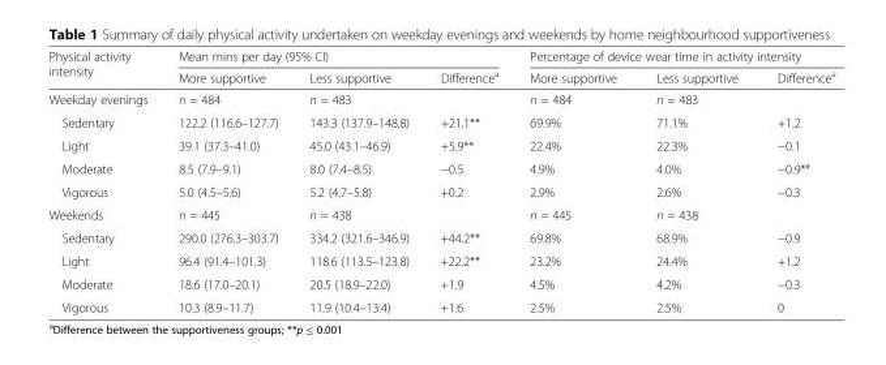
<table><thead><tr><td rowspan="2">Physical activity intensity</td><td colspan="3">Mean mins per day (95% CI)</td><td colspan="3">Percentage of device wear time in activity intensity</td></tr><tr><td>More supportive</td><td>Less supportive</td><td>Difference<sup>a</sup></td><td>More supportive</td><td>Less supportive</td><td>Difference<sup>a</sup></td></tr></thead><tbody><tr><td>Weekday evenings</td><td>n = 484</td><td>n = 483</td><td></td><td>n = 484</td><td>n = 483</td><td></td></tr><tr><td>Sedentary</td><td>122.2 (116.6–127.7)</td><td>143.3 (137.9–148.8)</td><td>+21.1**</td><td>69.9%</td><td>71.1%</td><td>+1.2</td></tr><tr><td>Light</td><td>39.1 (37.3–41.0)</td><td>45.0 (43.1–46.9)</td><td>+5.9**</td><td>22.4%</td><td>22.3%</td><td>−0.1</td></tr><tr><td>Moderate</td><td>8.5 (7.9–9.1)</td><td>8.0 (7.4–8.5)</td><td>−0.5</td><td>4.9%</td><td>4.0%</td><td>−0.9**</td></tr><tr><td>Vigorous</td><td>5.0 (4.5–5.6)</td><td>5.2 (4.7–5.8)</td><td>+0.2</td><td>2.9%</td><td>2.6%</td><td>−0.3</td></tr><tr><td>Weekends</td><td>n = 445</td><td>n = 438</td><td></td><td>n = 445</td><td>n = 438</td><td></td></tr><tr><td>Sedentary</td><td>290.0 (276.3–303.7)</td><td>334.2 (321.6–346.9)</td><td>+44.2**</td><td>69.8%</td><td>68.9%</td><td>−0.9</td></tr><tr><td>Light</td><td>96.4 (91.4–101.3)</td><td>118.6 (113.5–123.8)</td><td>+22.2**</td><td>23.2%</td><td>24.4%</td><td>+1.2</td></tr><tr><td>Moderate</td><td>18.6 (17.0–20.1)</td><td>20.5 (18.9–22.0)</td><td>+1.9</td><td>4.5%</td><td>4.2%</td><td>−0.3</td></tr><tr><td>Vigorous</td><td>10.3 (8.9–11.7)</td><td>11.9 (10.4–13.4)</td><td>+1.6</td><td>2.5%</td><td>2.5%</td><td>0</td></tr></tbody></table>